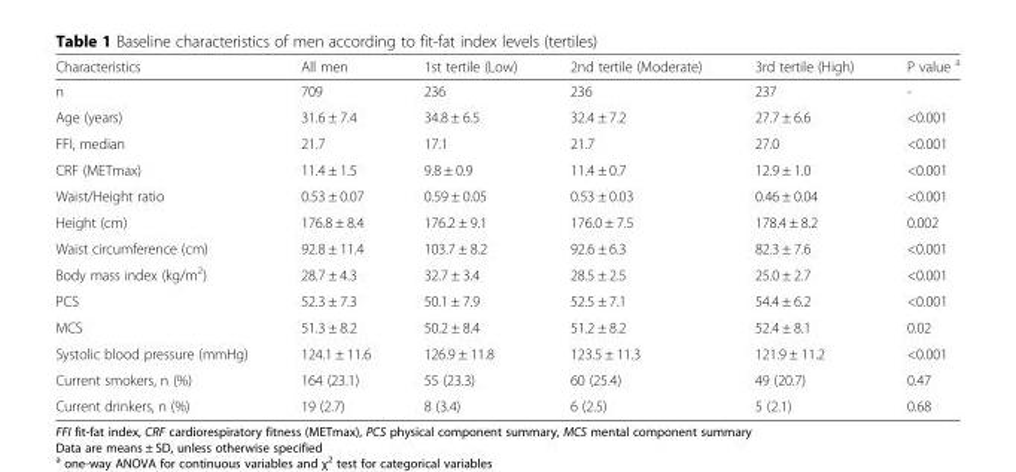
<table><thead><tr><td>Characteristics</td><td>All men</td><td>1st tertile (Low)</td><td>2nd tertile (Moderate)</td><td>3rd tertile (High)</td><td>P value <sup>a</sup></td></tr></thead><tbody><tr><td>n</td><td>709</td><td>236</td><td>236</td><td>237</td><td>-</td></tr><tr><td>Age (years)</td><td>31.6 ± 7.4</td><td>34.8 ± 6.5</td><td>32.4 ± 7.2</td><td>27.7 ± 6.6</td><td>&lt;0.001</td></tr><tr><td>FFI, median</td><td>21.7</td><td>17.1</td><td>21.7</td><td>27.0</td><td>&lt;0.001</td></tr><tr><td>CRF (METmax)</td><td>11.4 ± 1.5</td><td>9.8 ± 0.9</td><td>11.4 ± 0.7</td><td>12.9 ± 1.0</td><td>&lt;0.001</td></tr><tr><td>Waist/Height ratio</td><td>0.53 ± 0.07</td><td>0.59 ± 0.05</td><td>0.53 ± 0.03</td><td>0.46 ± 0.04</td><td>&lt;0.001</td></tr><tr><td>Height (cm)</td><td>176.8 ± 8.4</td><td>176.2 ± 9.1</td><td>176.0 ± 7.5</td><td>178.4 ± 8.2</td><td>0.002</td></tr><tr><td>Waist circumference (cm)</td><td>92.8 ± 11.4</td><td>103.7 ± 8.2</td><td>92.6 ± 6.3</td><td>82.3 ± 7.6</td><td>&lt;0.001</td></tr><tr><td>Body mass index (kg/m<sup>2</sup>)</td><td>28.7 ± 4.3</td><td>32.7 ± 3.4</td><td>28.5 ± 2.5</td><td>25.0 ± 2.7</td><td>&lt;0.001</td></tr><tr><td>PCS</td><td>52.3 ± 7.3</td><td>50.1 ± 7.9</td><td>52.5 ± 7.1</td><td>54.4 ± 6.2</td><td>&lt;0.001</td></tr><tr><td>MCS</td><td>51.3 ± 8.2</td><td>50.2 ± 8.4</td><td>51.2 ± 8.2</td><td>52.4 ± 8.1</td><td>0.02</td></tr><tr><td>Systolic blood pressure (mmHg)</td><td>124.1 ± 11.6</td><td>126.9 ± 11.8</td><td>123.5 ± 11.3</td><td>121.9 ± 11.2</td><td>&lt;0.001</td></tr><tr><td>Current smokers, n (%)</td><td>164 (23.1)</td><td>55 (23.3)</td><td>60 (25.4)</td><td>49 (20.7)</td><td>0.47</td></tr><tr><td>Current drinkers, n (%)</td><td>19 (2.7)</td><td>8 (3.4)</td><td>6 (2.5)</td><td>5 (2.1)</td><td>0.68</td></tr></tbody></table>